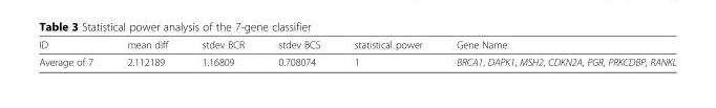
<table><thead><tr><td>ID</td><td>mean diff</td><td>stdev BCR</td><td>stdev BCS</td><td>statistical power</td><td>Gene Name</td></tr></thead><tbody><tr><td>Average of 7</td><td>2.112189</td><td>1.16809</td><td>0.708074</td><td>1</td><td>BRCA1, DAPK1, MSH2, CDKN2A, PGR, PRKCDBP, RANKL</td></tr></tbody></table>